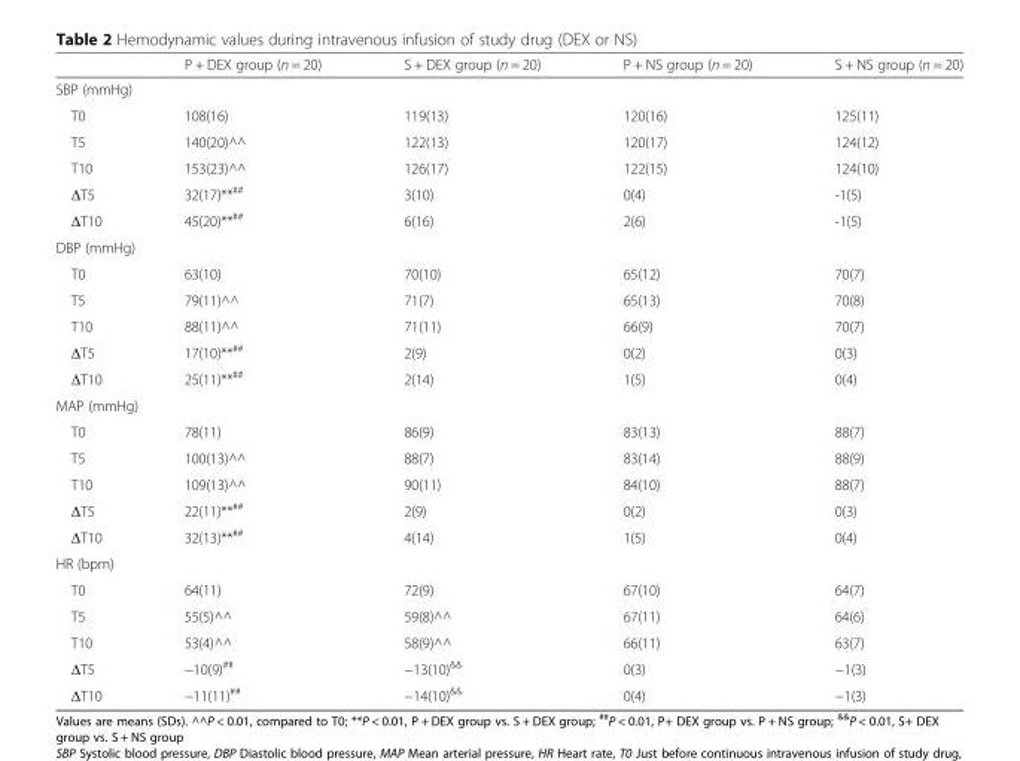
<table><thead><tr><td></td><td>P + DEX group (n = 20)</td><td>S + DEX group (n = 20)</td><td>P + NS group (n = 20)</td><td>S + NS group (n = 20)</td></tr></thead><tbody><tr><td colspan="5">SBP (mmHg)</td></tr><tr><td>T0</td><td>108(16)</td><td>119(13)</td><td>120(16)</td><td>125(11)</td></tr><tr><td>T5</td><td>140(20)^^</td><td>122(13)</td><td>120(17)</td><td>124(12)</td></tr><tr><td>T10</td><td>153(23)^^</td><td>126(17)</td><td>122(15)</td><td>124(10)</td></tr><tr><td>ΔT5</td><td>32(17)**<sup>##</sup></td><td>3(10)</td><td>0(4)</td><td>-1(5)</td></tr><tr><td>ΔT10</td><td>45(20)**<sup>##</sup></td><td>6(16)</td><td>2(6)</td><td>-1(5)</td></tr><tr><td colspan="5">DBP (mmHg)</td></tr><tr><td>T0</td><td>63(10)</td><td>70(10)</td><td>65(12)</td><td>70(7)</td></tr><tr><td>T5</td><td>79(11)^^</td><td>71(7)</td><td>65(13)</td><td>70(8)</td></tr><tr><td>T10</td><td>88(11)^^</td><td>71(11)</td><td>66(9)</td><td>70(7)</td></tr><tr><td>ΔT5</td><td>17(10)**<sup>##</sup></td><td>2(9)</td><td>0(2)</td><td>0(3)</td></tr><tr><td>ΔT10</td><td>25(11)**<sup>##</sup></td><td>2(14)</td><td>1(5)</td><td>0(4)</td></tr><tr><td colspan="5">MAP (mmHg)</td></tr><tr><td>T0</td><td>78(11)</td><td>86(9)</td><td>83(13)</td><td>88(7)</td></tr><tr><td>T5</td><td>100(13)^^</td><td>88(7)</td><td>83(14)</td><td>88(9)</td></tr><tr><td>T10</td><td>109(13)^^</td><td>90(11)</td><td>84(10)</td><td>88(7)</td></tr><tr><td>ΔT5</td><td>22(11)**<sup>##</sup></td><td>2(9)</td><td>0(2)</td><td>0(3)</td></tr><tr><td>ΔT10</td><td>32(13)**<sup>##</sup></td><td>4(14)</td><td>1(5)</td><td>0(4)</td></tr><tr><td colspan="5">HR (bpm)</td></tr><tr><td>T0</td><td>64(11)</td><td>72(9)</td><td>67(10)</td><td>64(7)</td></tr><tr><td>T5</td><td>55(5)^^</td><td>59(8)^^</td><td>67(11)</td><td>64(6)</td></tr><tr><td>T10</td><td>53(4)^^</td><td>58(9)^^</td><td>66(11)</td><td>63(7)</td></tr><tr><td>ΔT5</td><td>−10(9)<sup>##</sup></td><td>−13(10)<sup>&amp;&amp;</sup></td><td>0(3)</td><td>−1(3)</td></tr><tr><td>ΔT10</td><td>−11(11)<sup>##</sup></td><td>−14(10)<sup>&amp;&amp;</sup></td><td>0(4)</td><td>−1(3)</td></tr></tbody></table>